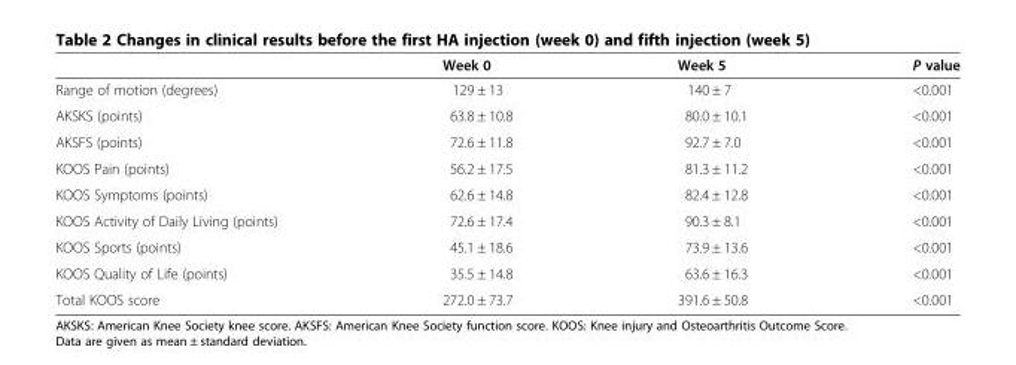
<table><thead><tr><td></td><td>Week 0</td><td>Week 5</td><td>P value</td></tr></thead><tbody><tr><td>Range of motion (degrees)</td><td>129 ± 13</td><td>140 ± 7</td><td>&lt;0.001</td></tr><tr><td>AKSKS (points)</td><td>63.8 ± 10.8</td><td>80.0 ± 10.1</td><td>&lt;0.001</td></tr><tr><td>AKSFS (points)</td><td>72.6 ± 11.8</td><td>92.7 ± 7.0</td><td>&lt;0.001</td></tr><tr><td>KOOS Pain (points)</td><td>56.2 ± 17.5</td><td>81.3 ± 11.2</td><td>&lt;0.001</td></tr><tr><td>KOOS Symptoms (points)</td><td>62.6 ± 14.8</td><td>82.4 ± 12.8</td><td>&lt;0.001</td></tr><tr><td>KOOS Activity of Daily Living (points)</td><td>72.6 ± 17.4</td><td>90.3 ± 8.1</td><td>&lt;0.001</td></tr><tr><td>KOOS Sports (points)</td><td>45.1 ± 18.6</td><td>73.9 ± 13.6</td><td>&lt;0.001</td></tr><tr><td>KOOS Quality of Life (points)</td><td>35.5 ± 14.8</td><td>63.6 ± 16.3</td><td>&lt;0.001</td></tr><tr><td>Total KOOS score</td><td>272.0 ± 73.7</td><td>391.6 ± 50.8</td><td>&lt;0.001</td></tr></tbody></table>